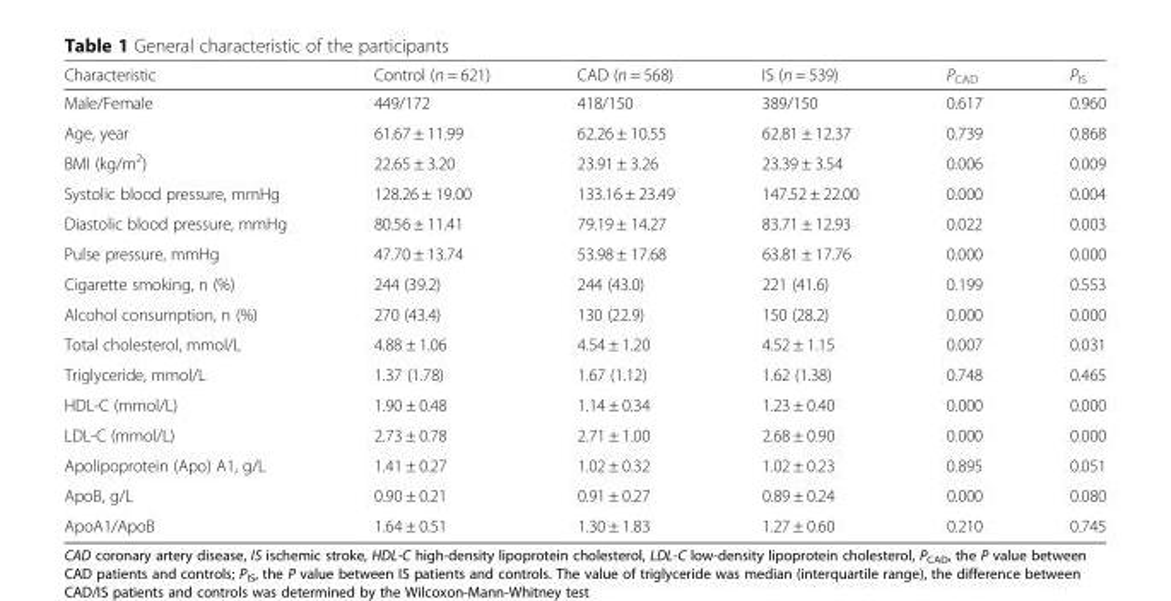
<table><thead><tr><td>Characteristic</td><td>Control (n = 621)</td><td>CAD (n = 568)</td><td>IS (n = 539)</td><td>P<sub>CAD</sub></td><td>P<sub>IS</sub></td></tr></thead><tbody><tr><td>Male/Female</td><td>449/172</td><td>418/150</td><td>389/150</td><td>0.617</td><td>0.960</td></tr><tr><td>Age, year</td><td>61.67 ± 11.99</td><td>62.26 ± 10.55</td><td>62.81 ± 12.37</td><td>0.739</td><td>0.868</td></tr><tr><td>BMI (kg/m<sup>2</sup>)</td><td>22.65 ± 3.20</td><td>23.91 ± 3.26</td><td>23.39 ± 3.54</td><td>0.006</td><td>0.009</td></tr><tr><td>Systolic blood pressure, mmHg</td><td>128.26 ± 19.00</td><td>133.16 ± 23.49</td><td>147.52 ± 22.00</td><td>0.000</td><td>0.004</td></tr><tr><td>Diastolic blood pressure, mmHg</td><td>80.56 ± 11.41</td><td>79.19 ± 14.27</td><td>83.71 ± 12.93</td><td>0.022</td><td>0.003</td></tr><tr><td>Pulse pressure, mmHg</td><td>47.70 ± 13.74</td><td>53.98 ± 17.68</td><td>63.81 ± 17.76</td><td>0.000</td><td>0.000</td></tr><tr><td>Cigarette smoking, n (%)</td><td>244 (39.2)</td><td>244 (43.0)</td><td>221 (41.6)</td><td>0.199</td><td>0.553</td></tr><tr><td>Alcohol consumption, n (%)</td><td>270 (43.4)</td><td>130 (22.9)</td><td>150 (28.2)</td><td>0.000</td><td>0.000</td></tr><tr><td>Total cholesterol, mmol/L</td><td>4.88 ± 1.06</td><td>4.54 ± 1.20</td><td>4.52 ± 1.15</td><td>0.007</td><td>0.031</td></tr><tr><td>Triglyceride, mmol/L</td><td>1.37 (1.78)</td><td>1.67 (1.12)</td><td>1.62 (1.38)</td><td>0.748</td><td>0.465</td></tr><tr><td>HDL-C (mmol/L)</td><td>1.90 ± 0.48</td><td>1.14 ± 0.34</td><td>1.23 ± 0.40</td><td>0.000</td><td>0.000</td></tr><tr><td>LDL-C (mmol/L)</td><td>2.73 ± 0.78</td><td>2.71 ± 1.00</td><td>2.68 ± 0.90</td><td>0.000</td><td>0.000</td></tr><tr><td>Apolipoprotein (Apo) A1, g/L</td><td>1.41 ± 0.27</td><td>1.02 ± 0.32</td><td>1.02 ± 0.23</td><td>0.895</td><td>0.051</td></tr><tr><td>ApoB, g/L</td><td>0.90 ± 0.21</td><td>0.91 ± 0.27</td><td>0.89 ± 0.24</td><td>0.000</td><td>0.080</td></tr><tr><td>ApoA1/ApoB</td><td>1.64 ± 0.51</td><td>1.30 ± 1.83</td><td>1.27 ± 0.60</td><td>0.210</td><td>0.745</td></tr></tbody></table>